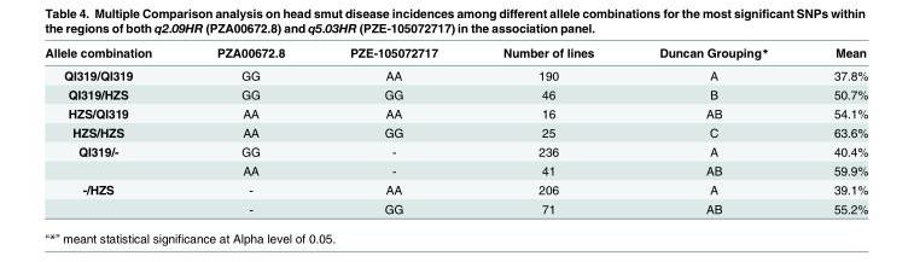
<table><thead><tr><td>Allele combination</td><td>PZA00672.8</td><td>PZE-105072717</td><td>Number of lines</td><td>Duncan Grouping*</td><td>Mean</td></tr></thead><tbody><tr><td>QI319/QI319</td><td>GG</td><td>AA</td><td>190</td><td>A</td><td>37.8%</td></tr><tr><td>QI319/HZS</td><td>GG</td><td>GG</td><td>46</td><td>B</td><td>50.7%</td></tr><tr><td>HZS/QI319</td><td>AA</td><td>AA</td><td>16</td><td>AB</td><td>54.1%</td></tr><tr><td>HZS/HZS</td><td>AA</td><td>GG</td><td>25</td><td>C</td><td>63.6%</td></tr><tr><td rowspan="2">QI319/-</td><td>GG</td><td>-</td><td>236</td><td>A</td><td>40.4%</td></tr><tr><td>AA</td><td>-</td><td>41</td><td>AB</td><td>59.9%</td></tr><tr><td rowspan="2">-/HZS</td><td>-</td><td>AA</td><td>206</td><td>A</td><td>39.1%</td></tr><tr><td>-</td><td>GG</td><td>71</td><td>AB</td><td>55.2%</td></tr></tbody></table>